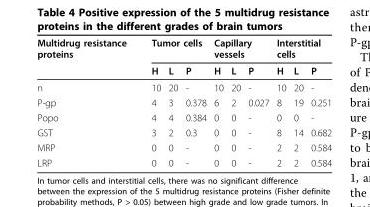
<table><thead><tr><td rowspan="2">Multidrug resistance proteins</td><td colspan="3">Tumor cells</td><td colspan="3">Capillary vessels</td><td colspan="3">Interstitial cells</td></tr><tr><td>H</td><td>L</td><td>P</td><td>H</td><td>L</td><td>P</td><td>H</td><td>L</td><td>P</td></tr></thead><tbody><tr><td>n</td><td>10</td><td>20</td><td>-</td><td>10</td><td>20</td><td>-</td><td>10</td><td>20</td><td>-</td></tr><tr><td>P-gp</td><td>4</td><td>3</td><td>0.378</td><td>6</td><td>2</td><td>0.027</td><td>8</td><td>19</td><td>0.251</td></tr><tr><td>Popo</td><td>4</td><td>4</td><td>0.384</td><td>0</td><td>0</td><td>-</td><td>0</td><td>0</td><td>-</td></tr><tr><td>GST</td><td>3</td><td>2</td><td>0.3</td><td>0</td><td>0</td><td>-</td><td>8</td><td>14</td><td>0.682</td></tr><tr><td>MRP</td><td>0</td><td>0</td><td>-</td><td>0</td><td>0</td><td>-</td><td>2</td><td>2</td><td>0.584</td></tr><tr><td>LRP</td><td>0</td><td>0</td><td>-</td><td>0</td><td>0</td><td>-</td><td>2</td><td>2</td><td>0.584</td></tr></tbody></table>